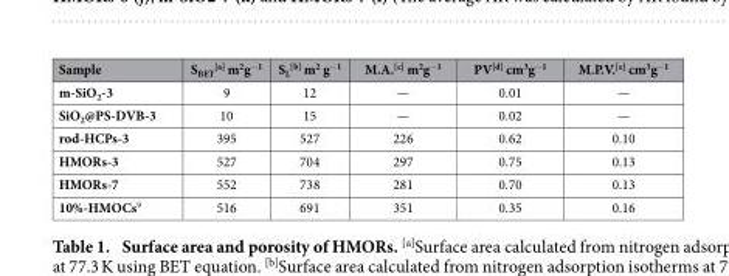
<table><thead><tr><td>Sample</td><td>S<sub>BET</sub> <sup>[a]</sup> m<sup>2</sup>g<sup>−1</sup></td><td>S<sub>L</sub> <sup>[b]</sup> m<sup>2</sup> g<sup>−1</sup></td><td>M.A.<sup>[c]</sup> m<sup>2</sup>g<sup>−1</sup></td><td>PV<sup>[d]</sup> cm<sup>3</sup>g<sup>−1</sup></td><td>M.P.V.<sup>[e]</sup> cm<sup>3</sup>g<sup>−1</sup></td></tr></thead><tbody><tr><td>m-SiO<sub>2</sub>-3</td><td>9</td><td>12</td><td>—</td><td>0.01</td><td>—</td></tr><tr><td>SiO<sub>2</sub>@PS-DVB-3</td><td>10</td><td>15</td><td>—</td><td>0.02</td><td>—</td></tr><tr><td>rod-HCPs-3</td><td>395</td><td>527</td><td>226</td><td>0.62</td><td>0.10</td></tr><tr><td>HMORs-3</td><td>527</td><td>704</td><td>297</td><td>0.75</td><td>0.13</td></tr><tr><td>HMORs-7</td><td>552</td><td>738</td><td>281</td><td>0.70</td><td>0.13</td></tr><tr><td>10%-HMOCs<sup>9</sup></td><td>516</td><td>691</td><td>351</td><td>0.35</td><td>0.16</td></tr></tbody></table>